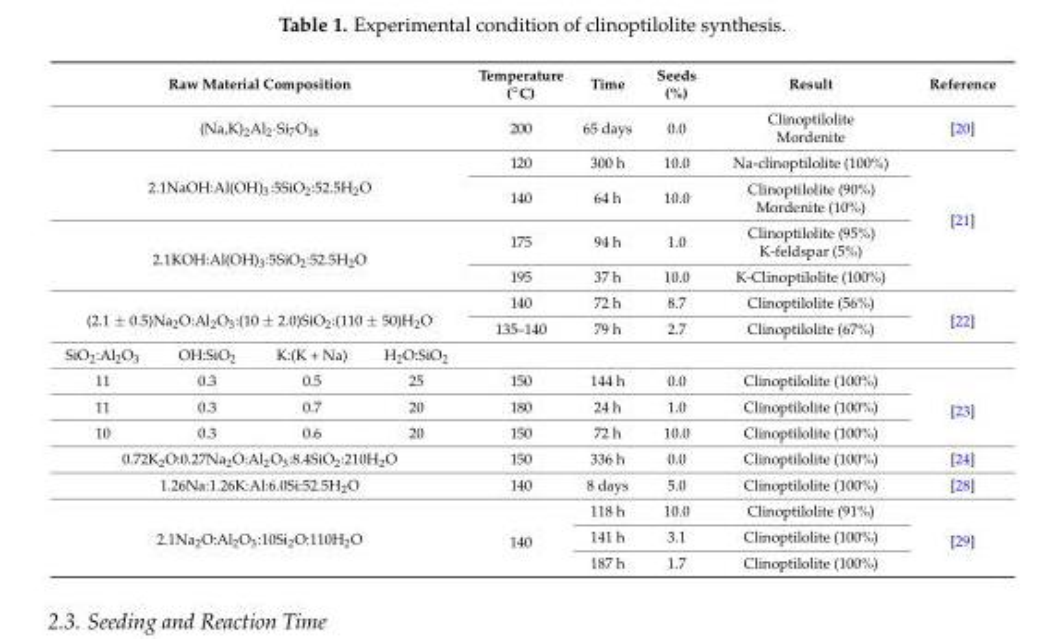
<table><thead><tr><td colspan="4">Raw Material Composition</td><td>Temperature (◦C)</td><td>Time</td><td>Seeds (%)</td><td>Result</td><td>Reference</td></tr></thead><tbody><tr><td colspan="4">(Na,K)<sub>2</sub>Al<sub>2</sub>·Si<sub>7</sub>O<sub>18</sub></td><td>200</td><td>65 days</td><td>0.0</td><td>Clinoptilolite Mordenite</td><td>[20]</td></tr><tr><td rowspan="2" colspan="4">2.1NaOH:Al(OH)<sub>3</sub>:5SiO<sub>2</sub>:52.5H<sub>2</sub>O</td><td>120</td><td>300 h</td><td>10.0</td><td>Na-clinoptilolite (100%)</td><td rowspan="4">[21]</td></tr><tr><td>140</td><td>64 h</td><td>10.0</td><td>Clinoptilolite (90%) Mordenite (10%)</td></tr><tr><td rowspan="2" colspan="4">2.1KOH:Al(OH)<sub>3</sub>:5SiO<sub>2</sub>:52.5H<sub>2</sub>O</td><td>175</td><td>94 h</td><td>1.0</td><td>Clinoptilolite (95%) K-feldspar (5%)</td></tr><tr><td>195</td><td>37 h</td><td>10.0</td><td>K-Clinoptilolite (100%)</td></tr><tr><td rowspan="2" colspan="4">(2.1 ± 0.5)Na<sub>2</sub>O:Al<sub>2</sub>O<sub>3</sub>:(10 ± 2.0)SiO<sub>2</sub>:(110 ± 50)H<sub>2</sub>O</td><td>140</td><td>72 h</td><td>8.7</td><td>Clinoptilolite (56%)</td><td rowspan="2">[22]</td></tr><tr><td>135–140</td><td>79 h</td><td>2.7</td><td>Clinoptilolite (67%)</td></tr><tr><td>SiO<sub>2</sub>:Al<sub>2</sub>O<sub>3</sub></td><td>OH:SiO<sub>2</sub></td><td>K:(K + Na)</td><td>H<sub>2</sub>O:SiO<sub>2</sub></td><td></td><td></td><td></td><td></td><td></td></tr><tr><td>11</td><td>0.3</td><td>0.5</td><td>25</td><td>150</td><td>144 h</td><td>0.0</td><td>Clinoptilolite (100%)</td><td rowspan="3">[23]</td></tr><tr><td>11</td><td>0.3</td><td>0.7</td><td>20</td><td>180</td><td>24 h</td><td>1.0</td><td>Clinoptilolite (100%)</td></tr><tr><td>10</td><td>0.3</td><td>0.6</td><td>20</td><td>150</td><td>72 h</td><td>10.0</td><td>Clinoptilolite (100%)</td></tr><tr><td colspan="4">0.72K<sub>2</sub>O:0.27Na<sub>2</sub>O:Al<sub>2</sub>O<sub>3</sub>:8.4SiO<sub>2</sub>:210H<sub>2</sub>O</td><td>150</td><td>336 h</td><td>0.0</td><td>Clinoptilolite (100%)</td><td>[24]</td></tr><tr><td colspan="4">1.26Na:1.26K:Al:6.0Si:52.5H<sub>2</sub>O</td><td>140</td><td>8 days</td><td>5.0</td><td>Clinoptilolite (100%)</td><td>[28]</td></tr><tr><td rowspan="3" colspan="4">2.1Na<sub>2</sub>O:Al<sub>2</sub>O<sub>3</sub>:10Si<sub>2</sub>O:110H<sub>2</sub>O</td><td rowspan="3">140</td><td>118 h</td><td>10.0</td><td>Clinoptilolite (91%)</td><td rowspan="3">[29]</td></tr><tr><td>141 h</td><td>3.1</td><td>Clinoptilolite (100%)</td></tr><tr><td>187 h</td><td>1.7</td><td>Clinoptilolite (100%)</td></tr></tbody></table>